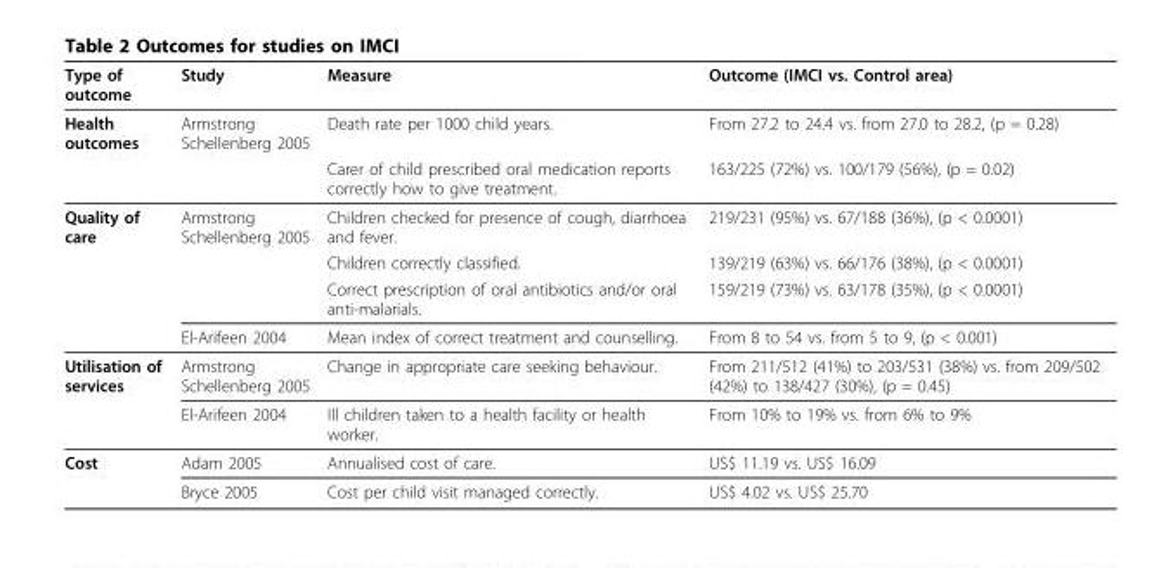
<table><thead><tr><td>Type of outcome</td><td>Study</td><td>Measure</td><td>Outcome (IMCI vs. Control area)</td></tr></thead><tbody><tr><td rowspan="2">Health outcomes</td><td>Armstrong Schellenberg 2005</td><td>Death rate per 1000 child years.</td><td>From 27.2 to 24.4 vs. from 27.0 to 28.2, (p = 0.28)</td></tr><tr><td></td><td>Carer of child prescribed oral medication reports correctly how to give treatment.</td><td>163/225 (72%) vs. 100/179 (56%), (p = 0.02)</td></tr><tr><td rowspan="4">Quality of care</td><td>Armstrong Schellenberg 2005</td><td>Children checked for presence of cough, diarrhoea and fever.</td><td>219/231 (95%) vs. 67/188 (36%), (p &lt; 0.0001)</td></tr><tr><td></td><td>Children correctly classified.</td><td>139/219 (63%) vs. 66/176 (38%), (p &lt; 0.0001)</td></tr><tr><td></td><td>Correct prescription of oral antibiotics and/or oral anti-malarials.</td><td>159/219 (73%) vs. 63/178 (35%), (p &lt; 0.0001)</td></tr><tr><td>El-Arifeen 2004</td><td>Mean index of correct treatment and counselling.</td><td>From 8 to 54 vs. from 5 to 9, (p &lt; 0.001)</td></tr><tr><td rowspan="2">Utilisation of services</td><td>Armstrong Schellenberg 2005</td><td>Change in appropriate care seeking behaviour.</td><td>From 211/512 (41%) to 203/531 (38%) vs. from 209/502 (42%) to 138/427 (30%), (p = 0.45)</td></tr><tr><td>El-Arifeen 2004</td><td>Ill children taken to a health facility or health worker.</td><td>From 10% to 19% vs. from 6% to 9%</td></tr><tr><td rowspan="2">Cost</td><td>Adam 2005</td><td>Annualised cost of care.</td><td>US$ 11.19 vs. US$ 16.09</td></tr><tr><td>Bryce 2005</td><td>Cost per child visit managed correctly.</td><td>US$ 4.02 vs. US$ 25.70</td></tr></tbody></table>